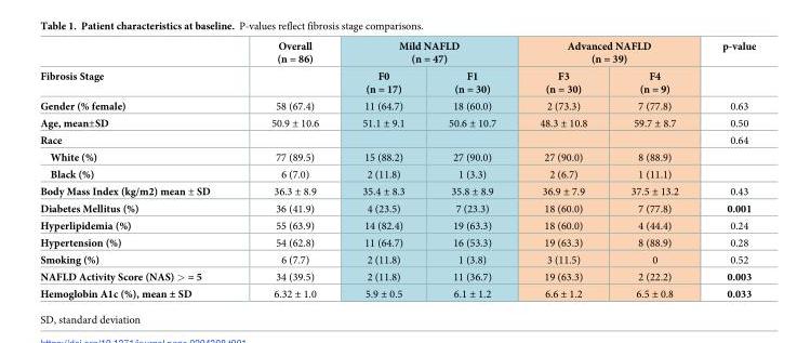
<table><thead><tr><td rowspan="2">Fibrosis Stage</td><td rowspan="2">Overall (n = 86)</td><td colspan="2">Mild NAFLD (n = 47)</td><td colspan="2">Advanced NAFLD (n = 39)</td><td rowspan="2">p-value</td></tr><tr><td>F0 (n = 17)</td><td>F1 (n = 30)</td><td>F3 (n = 30)</td><td>F4 (n = 9)</td></tr></thead><tbody><tr><td>Gender (% female)</td><td>58 (67.4)</td><td>11 (64.7)</td><td>18 (60.0)</td><td>2 (73.3)</td><td>7 (77.8)</td><td>0.63</td></tr><tr><td>Age, mean±SD</td><td>50.9 ± 10.6</td><td>51.1 ± 9.1</td><td>50.6 ± 10.7</td><td>48.3 ± 10.8</td><td>59.7 ± 8.7</td><td>0.50</td></tr><tr><td>Race</td><td></td><td></td><td></td><td></td><td></td><td>0.64</td></tr><tr><td>White (%)</td><td>77 (89.5)</td><td>15 (88.2)</td><td>27 (90.0)</td><td>27 (90.0)</td><td>8 (88.9)</td><td></td></tr><tr><td>Black (%)</td><td>6 (7.0)</td><td>2 (11.8)</td><td>1 (3.3)</td><td>2 (6.7)</td><td>1 (11.1)</td><td></td></tr><tr><td>Body Mass Index (kg/m2) mean ± SD</td><td>36.3 ± 8.9</td><td>35.4 ± 8.3</td><td>35.8 ± 8.9</td><td>36.9 ± 7.9</td><td>37.5 ± 13.2</td><td>0.43</td></tr><tr><td>Diabetes Mellitus (%)</td><td>36 (41.9)</td><td>4 (23.5)</td><td>7 (23.3)</td><td>18 (60.0)</td><td>7 (77.8)</td><td>0.001</td></tr><tr><td>Hyperlipidemia (%)</td><td>55 (63.9)</td><td>14 (82.4)</td><td>19 (63.3)</td><td>18 (60.0)</td><td>4 (44.4)</td><td>0.24</td></tr><tr><td>Hypertension (%)</td><td>54 (62.8)</td><td>11 (64.7)</td><td>16 (53.3)</td><td>19 (63.3)</td><td>8 (88.9)</td><td>0.28</td></tr><tr><td>Smoking (%)</td><td>6 (7.7)</td><td>2 (11.8)</td><td>1 (3.8)</td><td>3 (11.5)</td><td>0</td><td>0.52</td></tr><tr><td>NAFLD Activity Score (NAS) &gt; = 5</td><td>34 (39.5)</td><td>2 (11.8)</td><td>11 (36.7)</td><td>19 (63.3)</td><td>2 (22.2)</td><td>0.003</td></tr><tr><td>Hemoglobin A1c (%), mean ± SD</td><td>6.32 ± 1.0</td><td>5.9 ± 0.5</td><td>6.1 ± 1.2</td><td>6.6 ± 1.2</td><td>6.5 ± 0.8</td><td>0.033</td></tr></tbody></table>